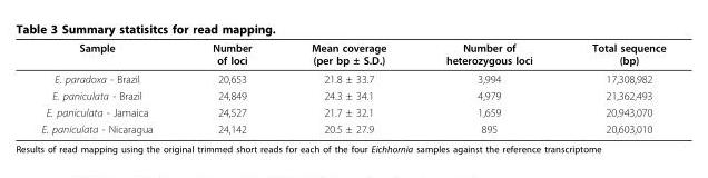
<table><thead><tr><td>Sample</td><td>Number of loci</td><td>Mean coverage (per bp ± S.D.)</td><td>Number of heterozygous loci</td><td>Total sequence (bp)</td></tr></thead><tbody><tr><td>E. paradoxa - Brazil</td><td>20,653</td><td>21.8 ± 33.7</td><td>3,994</td><td>17,308,982</td></tr><tr><td>E. paniculata - Brazil</td><td>24,849</td><td>24.3 ± 34.1</td><td>4,979</td><td>21,362,493</td></tr><tr><td>E. paniculata - Jamaica</td><td>24,527</td><td>21.7 ± 32.1</td><td>1,659</td><td>20,943,070</td></tr><tr><td>E. paniculata - Nicaragua</td><td>24,142</td><td>20.5 ± 27.9</td><td>895</td><td>20,603,010</td></tr></tbody></table>